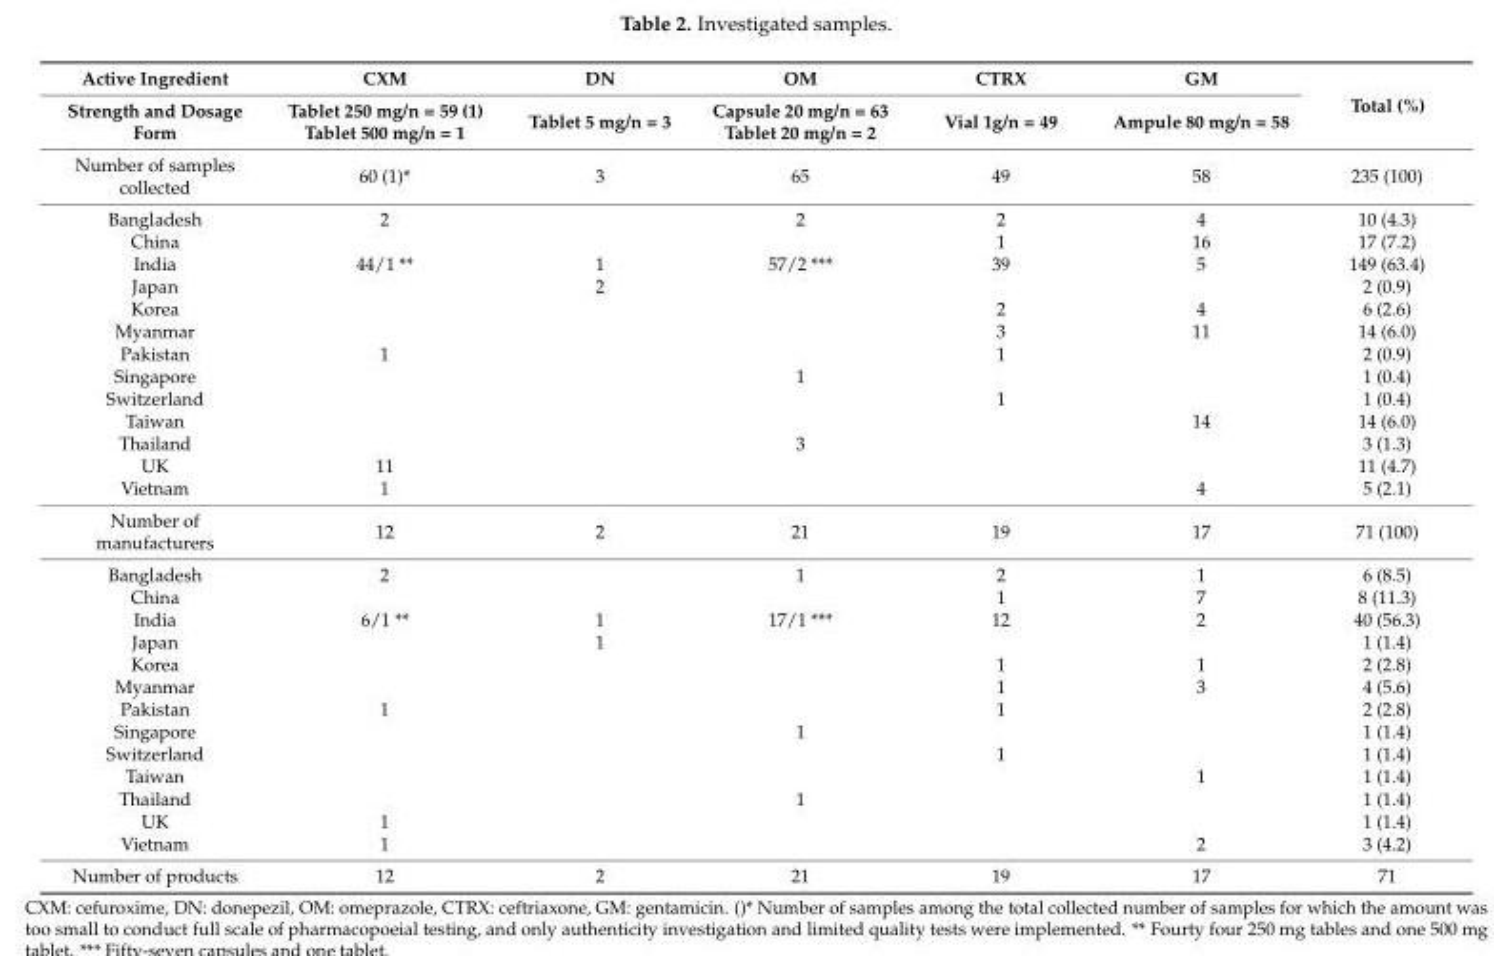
<table><thead><tr><td rowspan="2">Active Ingredient Strength and Dosage Form</td><td rowspan="2">CXM Tablet 250 mg/n = 59 (1) Tablet 500 mg/n = 1</td><td rowspan="2">DN Tablet 5 mg/n = 3</td><td rowspan="2">OM Capsule 20 mg/n = 63 Tablet 20 mg/n = 2</td><td rowspan="2">CTRX Vial 1g/n = 49</td><td rowspan="2">GM Ampule 80 mg/n = 58</td><td rowspan="2">Total (%)</td></tr><tr></tr></thead><tbody><tr><td>Number of samples collected</td><td>60 (1)*</td><td>3</td><td>65</td><td>49</td><td>58</td><td>235 (100)</td></tr><tr><td>Bangladesh</td><td>2</td><td></td><td>2</td><td>2</td><td>4</td><td>10 (4.3)</td></tr><tr><td>China</td><td></td><td></td><td></td><td>1</td><td>16</td><td>17 (7.2)</td></tr><tr><td>India</td><td>44/1 **</td><td>1</td><td>57/2 ***</td><td>39</td><td>5</td><td>149 (63.4)</td></tr><tr><td>Japan</td><td></td><td>2</td><td></td><td></td><td></td><td>2 (0.9)</td></tr><tr><td>Korea</td><td></td><td></td><td></td><td>2</td><td>4</td><td>6 (2.6)</td></tr><tr><td>Myanmar</td><td></td><td></td><td></td><td>3</td><td>11</td><td>14 (6.0)</td></tr><tr><td>Pakistan</td><td>1</td><td></td><td></td><td>1</td><td></td><td>2 (0.9)</td></tr><tr><td>Singapore</td><td></td><td></td><td>1</td><td></td><td></td><td>1 (0.4)</td></tr><tr><td>Switzerland</td><td></td><td></td><td></td><td>1</td><td></td><td>1 (0.4)</td></tr><tr><td>Taiwan</td><td></td><td></td><td></td><td></td><td>14</td><td>14 (6.0)</td></tr><tr><td>Thailand</td><td></td><td></td><td>3</td><td></td><td></td><td>3 (1.3)</td></tr><tr><td>UK</td><td>11</td><td></td><td></td><td></td><td></td><td>11 (4.7)</td></tr><tr><td>Vietnam</td><td>1</td><td></td><td></td><td></td><td>4</td><td>5 (2.1)</td></tr><tr><td>Number of manufacturers</td><td>12</td><td>2</td><td>21</td><td>19</td><td>17</td><td>71 (100)</td></tr><tr><td>Bangladesh</td><td>2</td><td></td><td>1</td><td>2</td><td>1</td><td>6 (8.5)</td></tr><tr><td>China</td><td></td><td></td><td></td><td>1</td><td>7</td><td>8 (11.3)</td></tr><tr><td>India</td><td>6/1 **</td><td>1</td><td>17/1 ***</td><td>12</td><td>2</td><td>40 (56.3)</td></tr><tr><td>Japan</td><td></td><td>1</td><td></td><td></td><td></td><td>1 (1.4)</td></tr><tr><td>Korea</td><td></td><td></td><td></td><td>1</td><td>1</td><td>2 (2.8)</td></tr><tr><td>Myanmar</td><td></td><td></td><td></td><td>1</td><td>3</td><td>4 (5.6)</td></tr><tr><td>Pakistan</td><td>1</td><td></td><td></td><td>1</td><td></td><td>2 (2.8)</td></tr><tr><td>Singapore</td><td></td><td></td><td>1</td><td></td><td></td><td>1 (1.4)</td></tr><tr><td>Switzerland</td><td></td><td></td><td></td><td>1</td><td></td><td>1 (1.4)</td></tr><tr><td>Taiwan</td><td></td><td></td><td></td><td></td><td>1</td><td>1 (1.4)</td></tr><tr><td>Thailand</td><td></td><td></td><td>1</td><td></td><td></td><td>1 (1.4)</td></tr><tr><td>UK</td><td>1</td><td></td><td></td><td></td><td></td><td>1 (1.4)</td></tr><tr><td>Vietnam</td><td>1</td><td></td><td></td><td></td><td>2</td><td>3 (4.2)</td></tr><tr><td>Number of products</td><td>12</td><td>2</td><td>21</td><td>19</td><td>17</td><td>71</td></tr></tbody></table>